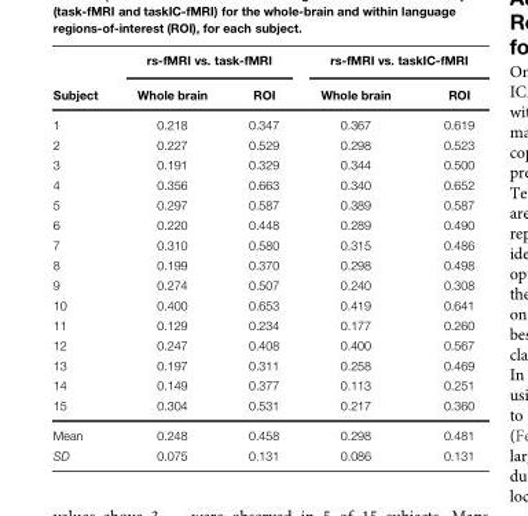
<table><thead><tr><td rowspan="2">Subject</td><td colspan="2">rs-fMRI vs. task-fMRI</td><td colspan="2">rs-fMRI vs. taskIC-fMRI</td></tr><tr><td>Whole brain</td><td>ROI</td><td>Whole brain</td><td>ROI</td></tr></thead><tbody><tr><td>1</td><td>0.218</td><td>0.347</td><td>0.367</td><td>0.619</td></tr><tr><td>2</td><td>0.227</td><td>0.529</td><td>0.298</td><td>0.523</td></tr><tr><td>3</td><td>0.191</td><td>0.329</td><td>0.344</td><td>0.500</td></tr><tr><td>4</td><td>0.356</td><td>0.663</td><td>0.340</td><td>0.652</td></tr><tr><td>5</td><td>0.297</td><td>0.587</td><td>0.389</td><td>0.587</td></tr><tr><td>6</td><td>0.220</td><td>0.448</td><td>0.289</td><td>0.490</td></tr><tr><td>7</td><td>0.310</td><td>0.580</td><td>0.315</td><td>0.486</td></tr><tr><td>8</td><td>0.199</td><td>0.370</td><td>0.298</td><td>0.498</td></tr><tr><td>9</td><td>0.274</td><td>0.507</td><td>0.240</td><td>0.308</td></tr><tr><td>10</td><td>0.400</td><td>0.653</td><td>0.419</td><td>0.641</td></tr><tr><td>11</td><td>0.129</td><td>0.234</td><td>0.177</td><td>0.260</td></tr><tr><td>12</td><td>0.247</td><td>0.408</td><td>0.400</td><td>0.567</td></tr><tr><td>13</td><td>0.197</td><td>0.311</td><td>0.258</td><td>0.469</td></tr><tr><td>14</td><td>0.149</td><td>0.377</td><td>0.113</td><td>0.251</td></tr><tr><td>15</td><td>0.304</td><td>0.531</td><td>0.217</td><td>0.360</td></tr><tr><td>Mean</td><td>0.248</td><td>0.458</td><td>0.298</td><td>0.481</td></tr><tr><td>SD</td><td>0.075</td><td>0.131</td><td>0.086</td><td>0.131</td></tr></tbody></table>